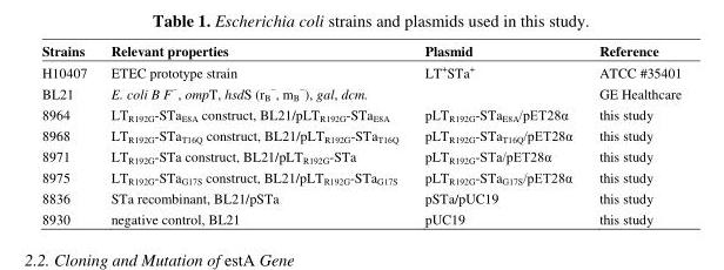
<table><thead><tr><td>Strains</td><td>Relevant properties</td><td>Plasmid</td><td>Reference</td></tr></thead><tbody><tr><td>H10407</td><td>ETEC prototype strain</td><td>LT<sup>+</sup>STa<sup>+</sup></td><td>ATCC #35401</td></tr><tr><td>BL21</td><td colspan="2">E. coli B F<sup>−</sup>, ompT, hsdS (r<sub>B</sub> <sup>−</sup>, m<sub>B</sub> <sup>−</sup>), gal, dcm.</td><td>GE Healthcare</td></tr><tr><td>8964</td><td>LT<sub>R192G</sub>-STa<sub>E8A</sub> construct, BL21/pLT<sub>R192G</sub>-STa<sub>E8A</sub></td><td>pLT<sub>R192G</sub>-STa<sub>E8A</sub>/pET28α</td><td>this study</td></tr><tr><td>8968</td><td>LT<sub>R192G</sub>-STa<sub>T16Q</sub> construct, BL21/pLT<sub>R192G</sub>-STa<sub>T16Q</sub></td><td>pLT<sub>R192G</sub>-STa<sub>T16Q</sub>/pET28α</td><td>this study</td></tr><tr><td>8971</td><td>LT<sub>R192G</sub>-STa construct, BL21/pLT<sub>R192G</sub>-STa</td><td>pLT<sub>R192G</sub>-STa/pET28α</td><td>this study</td></tr><tr><td>8975</td><td>LT<sub>R192G</sub>-STa<sub>G17S</sub> construct, BL21/pLT<sub>R192G</sub>-STa<sub>G17S</sub></td><td>pLT<sub>R192G</sub>-STa<sub>G17S</sub>/pET28α</td><td>this study</td></tr><tr><td>8836</td><td>STa recombinant, BL21/pSTa</td><td>pSTa/pUC19</td><td>this study</td></tr><tr><td>8930</td><td>negative control, BL21</td><td>pUC19</td><td>this study</td></tr></tbody></table>